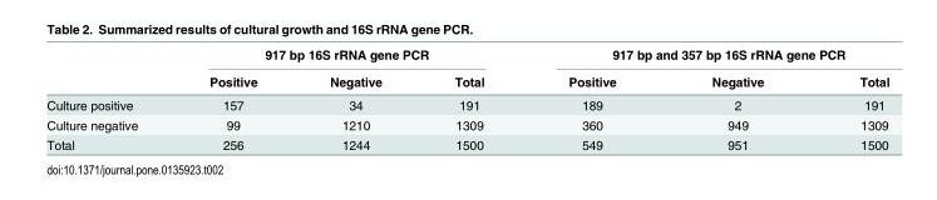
<table><thead><tr><td rowspan="2"></td><td colspan="3">917 bp 16S rRNA gene PCR</td><td colspan="3">917 bp and 357 bp 16S rRNA gene PCR</td></tr><tr><td>Positive</td><td>Negative</td><td>Total</td><td>Positive</td><td>Negative</td><td>Total</td></tr></thead><tbody><tr><td>Culture positive</td><td>157</td><td>34</td><td>191</td><td>189</td><td>2</td><td>191</td></tr><tr><td>Culture negative</td><td>99</td><td>1210</td><td>1309</td><td>360</td><td>949</td><td>1309</td></tr><tr><td>Total</td><td>256</td><td>1244</td><td>1500</td><td>549</td><td>951</td><td>1500</td></tr></tbody></table>